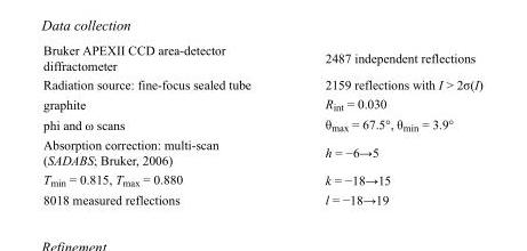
<table><tbody><tr><td>Bruker APEXII CCD area-detector diffractometer</td><td>2487 independent reflections</td></tr><tr><td>Radiation source: fine-focus sealed tube</td><td>2159 reflections with I &gt; 2σ(I)</td></tr><tr><td>graphite</td><td>R<sub>int</sub> = 0.030</td></tr><tr><td>phi and ω scans</td><td>θ<sub>max</sub> = 67.5°, θ<sub>min</sub> = 3.9°</td></tr><tr><td>Absorption correction: multi-scan (SADABS; Bruker, 2006)</td><td>h = −6→5</td></tr><tr><td>T<sub>min</sub> = 0.815, T<sub>max</sub> = 0.880</td><td>k = −18→15</td></tr><tr><td>8018 measured reflections</td><td>l = −18→19</td></tr></tbody></table>